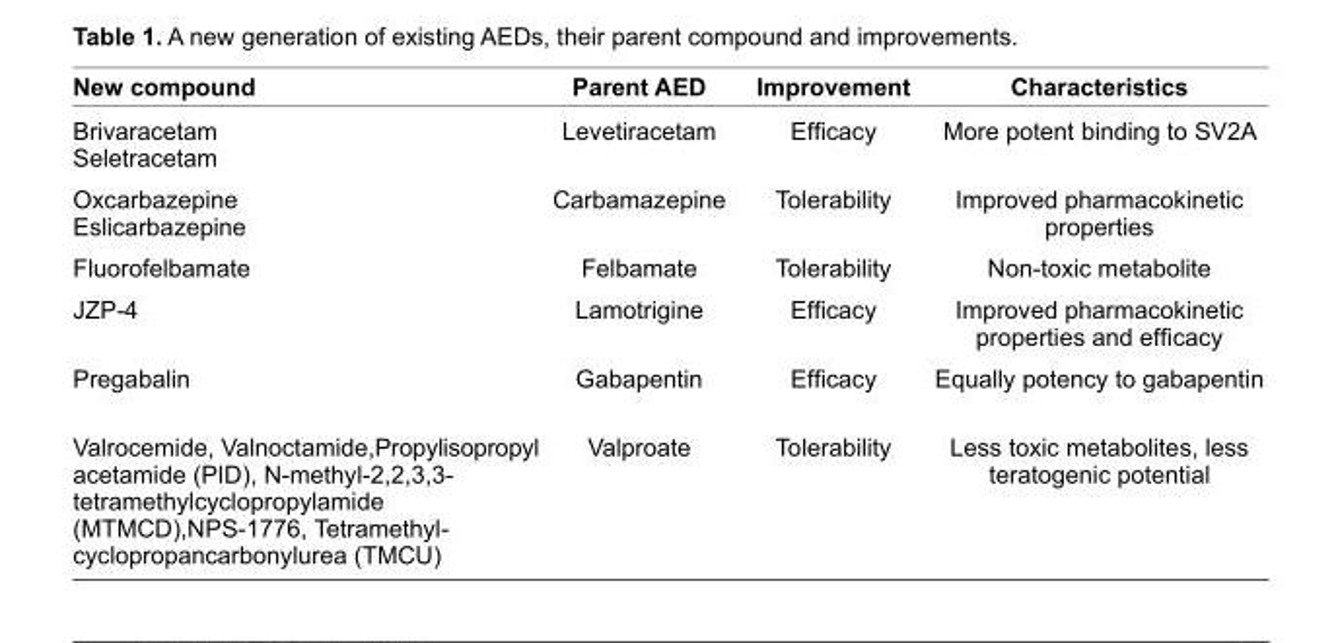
<table><thead><tr><td>New compound</td><td>Parent AED</td><td>Improvement</td><td>Characteristics</td></tr></thead><tbody><tr><td>Brivaracetam Seletracetam</td><td>Levetiracetam</td><td>Effi cacy</td><td>More potent binding to SV2A</td></tr><tr><td>Oxcarbazepine Eslicarbazepine</td><td>Carbamazepine</td><td>Tolerability</td><td>Improved pharmacokinetic properties</td></tr><tr><td>Fluorofelbamate</td><td>Felbamate</td><td>Tolerability</td><td>Non-toxic metabolite</td></tr><tr><td>JZP-4</td><td>Lamotrigine</td><td>Effi cacy</td><td>Improved pharmacokinetic properties and effi cacy</td></tr><tr><td>Pregabalin</td><td>Gabapentin</td><td>Effi cacy</td><td>Equally potency to gabapentin</td></tr><tr><td>Valrocemide, Valnoctamide,Propylisopropyl acetamide (PID), N-methyl-2,2,3,3- tetramethylcyclopropylamide (MTMCD),NPS-1776, Tetramethyl- cyclopropancarbonylurea (TMCU)</td><td>Valproate</td><td>Tolerability</td><td>Less toxic metabolites, less teratogenic potential</td></tr></tbody></table>